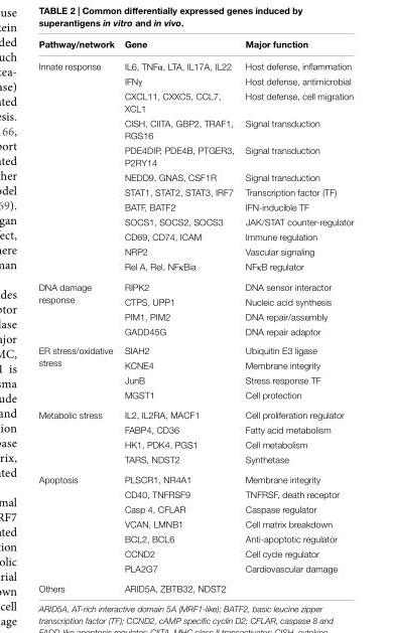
<table><thead><tr><td>Pathway/network</td><td>Gene</td><td>Major function</td></tr></thead><tbody><tr><td rowspan="12">Innate response</td><td>IL6, TNFα, LTA, IL17A, IL22</td><td>Host defense, inflammation</td></tr><tr><td>IFNγ</td><td>Host defense, antimicrobial</td></tr><tr><td>CXCL11, CXXC5, CCL7, XCL1</td><td>Host defense, cell migration</td></tr><tr><td>CISH, CIITA, GBP2, TRAF1, RGS16</td><td>Signal transduction</td></tr><tr><td>PDE4DIP, PDE4B, PTGER3, P2RY14</td><td>Signal transduction</td></tr><tr><td>NEDD9, GNAS, CSF1R</td><td>Signal transduction</td></tr><tr><td>STAT1, STAT2, STAT3, IRF7</td><td>Transcription factor (TF)</td></tr><tr><td>BATF, BATF2</td><td>IFN-inducible TF</td></tr><tr><td>SOCS1, SOCS2, SOCS3</td><td>JAK/STAT counter-regulator</td></tr><tr><td>CD69, CD74, ICAM</td><td>Immune regulation</td></tr><tr><td>NRP2</td><td>Vascular signaling</td></tr><tr><td>Rel A, Rel, NFκBia</td><td>NFκB regulator</td></tr><tr><td rowspan="4">DNA damage response</td><td>RIPK2</td><td>DNA sensor interactor</td></tr><tr><td>CTPS, UPP1</td><td>Nucleic acid synthesis</td></tr><tr><td>PIM1, PIM2</td><td>DNA repair/assembly</td></tr><tr><td>GADD45G</td><td>DNA repair adaptor</td></tr><tr><td rowspan="4">ER stress/oxidative stress</td><td>SIAH2</td><td>Ubiquitin E3 ligase</td></tr><tr><td>KCNE4</td><td>Membrane integrity</td></tr><tr><td>JunB</td><td>Stress response TF</td></tr><tr><td>MGST1</td><td>Cell protection</td></tr><tr><td rowspan="4">Metabolic stress</td><td>IL2, IL2RA, MACF1</td><td>Cell proliferation regulator</td></tr><tr><td>FABP4, CD36</td><td>Fatty acid metabolism</td></tr><tr><td>HK1, PDK4, PGS1</td><td>Cell metabolism</td></tr><tr><td>TARS, NDST2</td><td>Synthetase</td></tr><tr><td rowspan="7">Apoptosis</td><td>PLSCR1, NR4A1</td><td>Membrane integrity</td></tr><tr><td>CD40, TNFRSF9</td><td>TNFRSF, death receptor</td></tr><tr><td>Casp 4, CFLAR</td><td>Caspase regulator</td></tr><tr><td>VCAN, LMNB1</td><td>Cell matrix breakdown</td></tr><tr><td>BCL2, BCL6</td><td>Anti-apoptotic regulator</td></tr><tr><td>CCND2</td><td>Cell cycle regulator</td></tr><tr><td>PLA2G7</td><td>Cardiovascular damage</td></tr><tr><td>Others</td><td>ARID5A, ZBTB32, NDST2</td><td></td></tr></tbody></table>